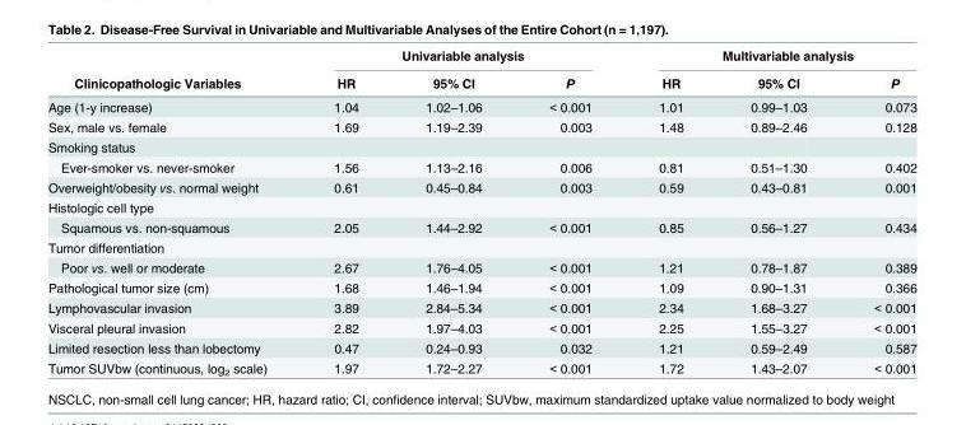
<table><thead><tr><td rowspan="2">Clinicopathologic Variables</td><td colspan="3">Univariable analysis</td><td colspan="3">Multivariable analysis</td></tr><tr><td>HR</td><td>95% CI</td><td>P</td><td>HR</td><td>95% CI</td><td>P</td></tr></thead><tbody><tr><td>Age (1-y increase)</td><td>1.04</td><td>1.02–1.06</td><td>&lt; 0.001</td><td>1.01</td><td>0.99–1.03</td><td>0.073</td></tr><tr><td>Sex, male vs. female</td><td>1.69</td><td>1.19–2.39</td><td>0.003</td><td>1.48</td><td>0.89–2.46</td><td>0.128</td></tr><tr><td colspan="7">Smoking status</td></tr><tr><td>Ever-smoker vs. never-smoker</td><td>1.56</td><td>1.13–2.16</td><td>0.006</td><td>0.81</td><td>0.51–1.30</td><td>0.402</td></tr><tr><td>Overweight/obesity vs. normal weight</td><td>0.61</td><td>0.45–0.84</td><td>0.003</td><td>0.59</td><td>0.43–0.81</td><td>0.001</td></tr><tr><td colspan="7">Histologic cell type</td></tr><tr><td>Squamous vs. non-squamous</td><td>2.05</td><td>1.44–2.92</td><td>&lt; 0.001</td><td>0.85</td><td>0.56–1.27</td><td>0.434</td></tr><tr><td colspan="7">Tumor differentiation</td></tr><tr><td>Poor vs. well or moderate</td><td>2.67</td><td>1.76–4.05</td><td>&lt; 0.001</td><td>1.21</td><td>0.78–1.87</td><td>0.389</td></tr><tr><td>Pathological tumor size (cm)</td><td>1.68</td><td>1.46–1.94</td><td>&lt; 0.001</td><td>1.09</td><td>0.90–1.31</td><td>0.366</td></tr><tr><td>Lymphovascular invasion</td><td>3.89</td><td>2.84–5.34</td><td>&lt; 0.001</td><td>2.34</td><td>1.68–3.27</td><td>&lt; 0.001</td></tr><tr><td>Visceral pleural invasion</td><td>2.82</td><td>1.97–4.03</td><td>&lt; 0.001</td><td>2.25</td><td>1.55–3.27</td><td>&lt; 0.001</td></tr><tr><td>Limited resection less than lobectomy</td><td>0.47</td><td>0.24–0.93</td><td>0.032</td><td>1.21</td><td>0.59–2.49</td><td>0.587</td></tr><tr><td>Tumor SUVbw (continuous, log<sub>2</sub> scale)</td><td>1.97</td><td>1.72–2.27</td><td>&lt; 0.001</td><td>1.72</td><td>1.43–2.07</td><td>&lt; 0.001</td></tr></tbody></table>